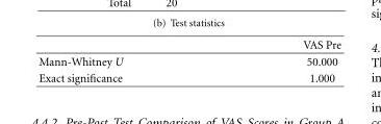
<table><thead><tr><td></td><td>VAS Pre</td></tr></thead><tbody><tr><td>Mann-Whitney U</td><td>50.000</td></tr><tr><td>Exact significance</td><td>1.000</td></tr></tbody></table>